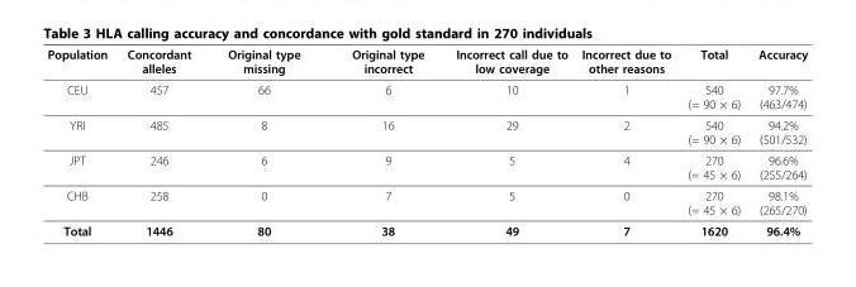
<table><thead><tr><td>Population</td><td>Concordant alleles</td><td>Original type missing</td><td>Original type incorrect</td><td>Incorrect call due to low coverage</td><td>Incorrect due to other reasons</td><td>Total</td><td>Accuracy</td></tr></thead><tbody><tr><td>CEU</td><td>457</td><td>66</td><td>6</td><td>10</td><td>1</td><td>540 (= 90 × 6)</td><td>97.7% (463/474)</td></tr><tr><td>YRI</td><td>485</td><td>8</td><td>16</td><td>29</td><td>2</td><td>540 (= 90 × 6)</td><td>94.2% (501/532)</td></tr><tr><td>JPT</td><td>246</td><td>6</td><td>9</td><td>5</td><td>4</td><td>270 (= 45 × 6)</td><td>96.6% (255/264)</td></tr><tr><td>CHB</td><td>258</td><td>0</td><td>7</td><td>5</td><td>0</td><td>270 (= 45 × 6)</td><td>98.1% (265/270)</td></tr><tr><td>Total</td><td>1446</td><td>80</td><td>38</td><td>49</td><td>7</td><td>1620</td><td>96.4%</td></tr></tbody></table>